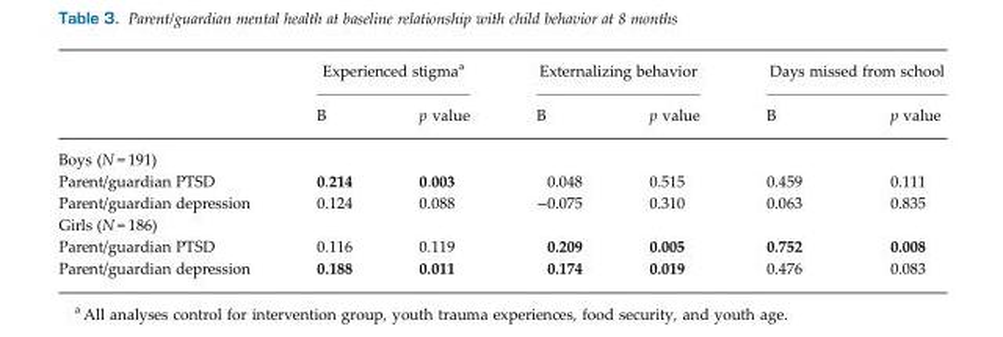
<table><thead><tr><td rowspan="2"></td><td colspan="2">Experienced stigma<sup>a</sup></td><td colspan="2">Externalizing behavior</td><td colspan="2">Days missed from school</td></tr><tr><td>B</td><td>p value</td><td>B</td><td>p value</td><td>B</td><td>p value</td></tr></thead><tbody><tr><td colspan="7">Boys (N = 191)</td></tr><tr><td>Parent/guardian PTSD</td><td>0.214</td><td>0.003</td><td>0.048</td><td>0.515</td><td>0.459</td><td>0.111</td></tr><tr><td>Parent/guardian depression</td><td>0.124</td><td>0.088</td><td>−0.075</td><td>0.310</td><td>0.063</td><td>0.835</td></tr><tr><td colspan="7">Girls (N = 186)</td></tr><tr><td>Parent/guardian PTSD</td><td>0.116</td><td>0.119</td><td>0.209</td><td>0.005</td><td>0.752</td><td>0.008</td></tr><tr><td>Parent/guardian depression</td><td>0.188</td><td>0.011</td><td>0.174</td><td>0.019</td><td>0.476</td><td>0.083</td></tr></tbody></table>